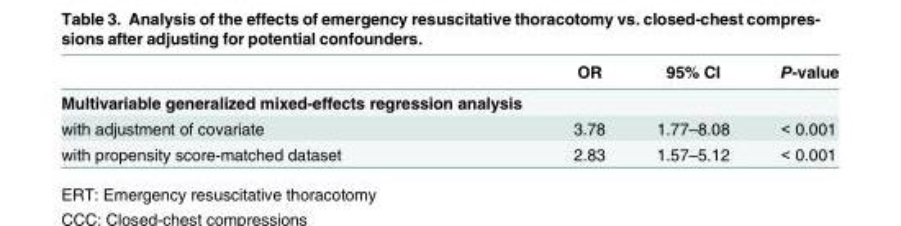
<table><thead><tr><td></td><td>OR</td><td>95% CI</td><td>P-value</td></tr></thead><tbody><tr><td colspan="4">Multivariable generalized mixed-effects regression analysis</td></tr><tr><td>with adjustment of covariate</td><td>3.78</td><td>1.77–8.08</td><td>&lt; 0.001</td></tr><tr><td>with propensity score-matched dataset</td><td>2.83</td><td>1.57–5.12</td><td>&lt; 0.001</td></tr></tbody></table>